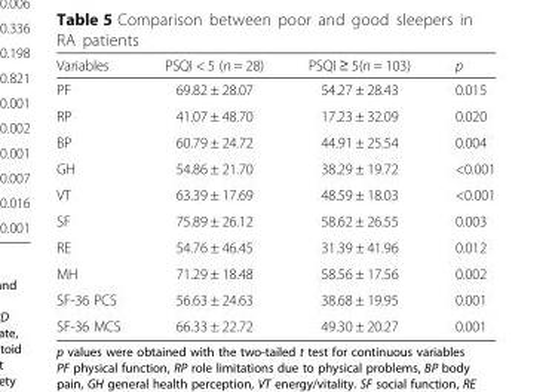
<table><thead><tr><td>Variables</td><td>PSQI &lt; 5 (n = 28)</td><td>PSQI ≥ 5(n = 103)</td><td>p</td></tr></thead><tbody><tr><td>PF</td><td>69.82 ± 28.07</td><td>54.27 ± 28.43</td><td>0.015</td></tr><tr><td>RP</td><td>41.07 ± 48.70</td><td>17.23 ± 32.09</td><td>0.020</td></tr><tr><td>BP</td><td>60.79 ± 24.72</td><td>44.91 ± 25.54</td><td>0.004</td></tr><tr><td>GH</td><td>54.86 ± 21.70</td><td>38.29 ± 19.72</td><td>&lt;0.001</td></tr><tr><td>VT</td><td>63.39 ± 17.69</td><td>48.59 ± 18.03</td><td>&lt;0.001</td></tr><tr><td>SF</td><td>75.89 ± 26.12</td><td>58.62 ± 26.55</td><td>0.003</td></tr><tr><td>RE</td><td>54.76 ± 46.45</td><td>31.39 ± 41.96</td><td>0.012</td></tr><tr><td>MH</td><td>71.29 ± 18.48</td><td>58.56 ± 17.56</td><td>0.002</td></tr><tr><td>SF-36 PCS</td><td>56.63 ± 24.63</td><td>38.68 ± 19.95</td><td>0.001</td></tr><tr><td>SF-36 MCS</td><td>66.33 ± 22.72</td><td>49.30 ± 20.27</td><td>0.001</td></tr></tbody></table>